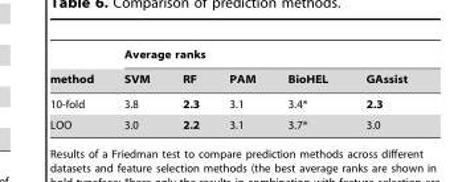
<table><thead><tr><td rowspan="2">method</td><td colspan="5">Average ranks</td></tr><tr><td>SVM</td><td>RF</td><td>PAM</td><td>BioHEL</td><td>GAssist</td></tr></thead><tbody><tr><td>10-fold</td><td>3.8</td><td>2.3</td><td>3.1</td><td>3.4*</td><td>2.3</td></tr><tr><td>LOO</td><td>3.0</td><td>2.2</td><td>3.1</td><td>3.7*</td><td>3.0</td></tr></tbody></table>